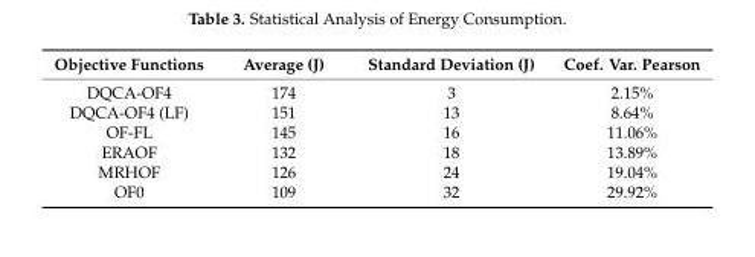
<table><thead><tr><td>Objective Functions</td><td>Average (J)</td><td>Standard Deviation (J)</td><td>Coef. Var. Pearson</td></tr></thead><tbody><tr><td>DQCA-OF4</td><td>174</td><td>3</td><td>2.15%</td></tr><tr><td>DQCA-OF4 (LF)</td><td>151</td><td>13</td><td>8.64%</td></tr><tr><td>OF-FL</td><td>145</td><td>16</td><td>11.06%</td></tr><tr><td>ERAOF</td><td>132</td><td>18</td><td>13.89%</td></tr><tr><td>MRHOF</td><td>126</td><td>24</td><td>19.04%</td></tr><tr><td>OF0</td><td>109</td><td>32</td><td>29.92%</td></tr></tbody></table>